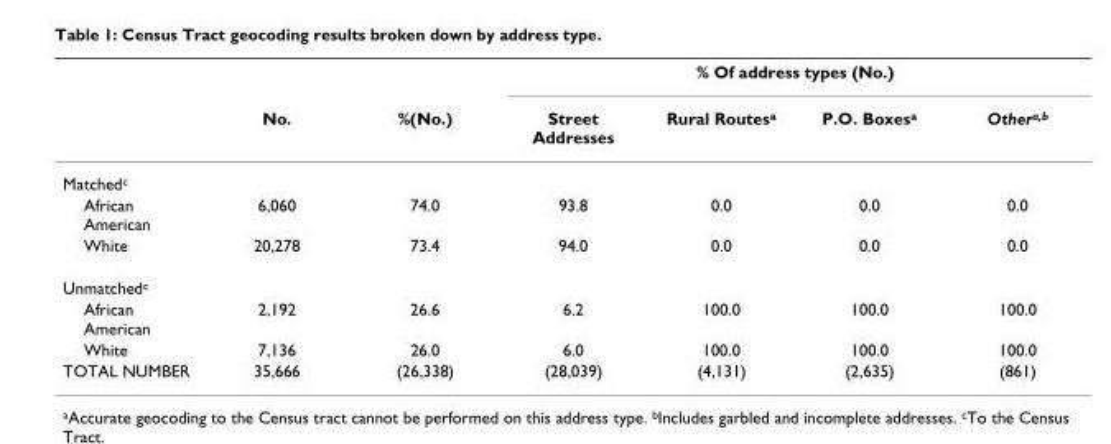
<table><thead><tr><td rowspan="2"></td><td rowspan="2">No.</td><td rowspan="2">%(No.)</td><td colspan="4">% Of address types (No.)</td></tr><tr><td>Street Addresses</td><td>Rural Routes<sup>a</sup></td><td>P.O. Boxes<sup>a</sup></td><td>Other<sup>a,b</sup></td></tr></thead><tbody><tr><td colspan="7">Matched<sup>c</sup></td></tr><tr><td>African American</td><td>6,060</td><td>74.0</td><td>93.8</td><td>0.0</td><td>0.0</td><td>0.0</td></tr><tr><td>White</td><td>20,278</td><td>73.4</td><td>94.0</td><td>0.0</td><td>0.0</td><td>0.0</td></tr><tr><td colspan="7">Unmatched<sup>c</sup></td></tr><tr><td>African American</td><td>2,192</td><td>26.6</td><td>6.2</td><td>100.0</td><td>100.0</td><td>100.0</td></tr><tr><td>White</td><td>7,136</td><td>26.0</td><td>6.0</td><td>100.0</td><td>100.0</td><td>100.0</td></tr><tr><td>TOTAL NUMBER</td><td>35,666</td><td>(26,338)</td><td>(28,039)</td><td>(4,131)</td><td>(2,635)</td><td>(861)</td></tr></tbody></table>